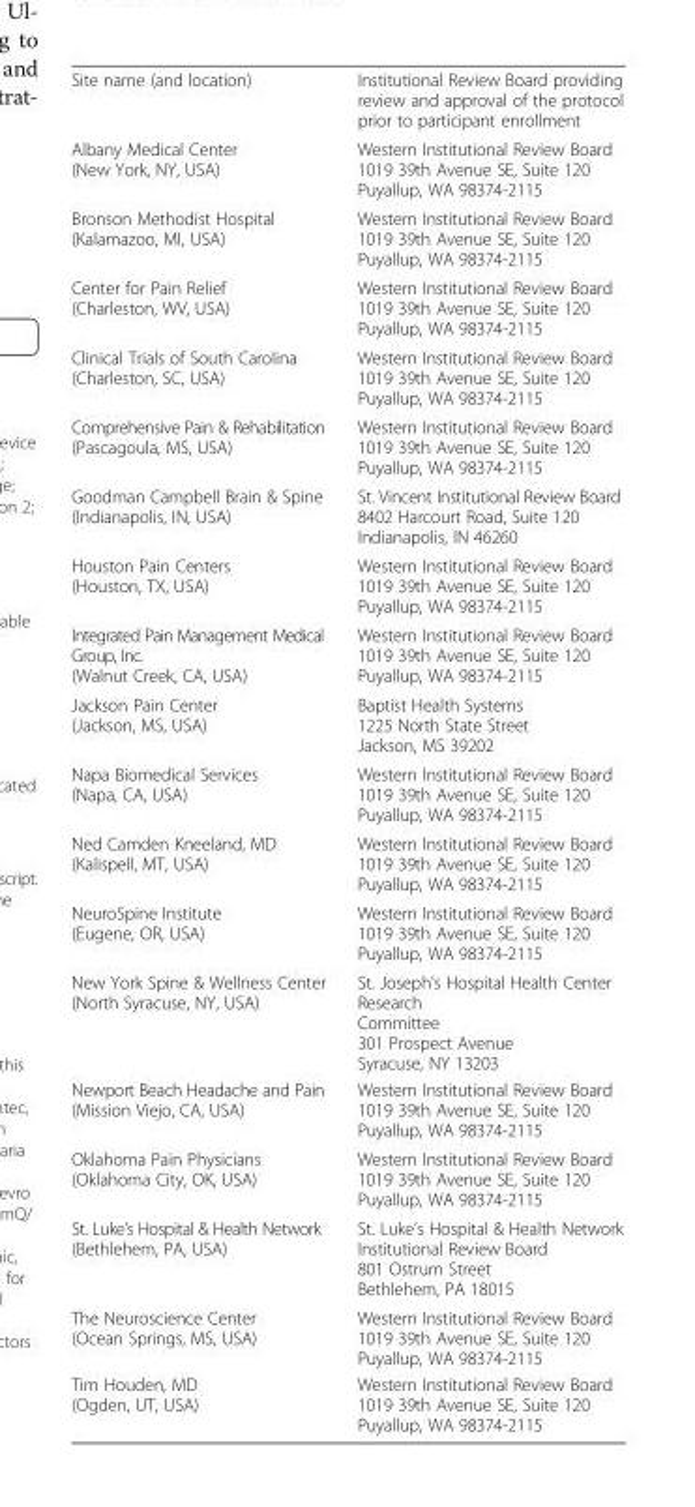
<table><tbody><tr><td>Site name (and location)</td><td>Institutional Review Board providing review and approval of the protocol prior to participant enrollment</td></tr><tr><td>Albany Medical Center (New York, NY, USA)</td><td>Western Institutional Review Board 1019 39th Avenue SE, Suite 120 Puyallup, WA 98374-2115</td></tr><tr><td>Bronson Methodist Hospital (Kalamazoo, MI, USA)</td><td>Western Institutional Review Board 1019 39th Avenue SE, Suite 120 Puyallup, WA 98374-2115</td></tr><tr><td>Center for Pain Relief (Charleston, WV, USA)</td><td>Western Institutional Review Board 1019 39th Avenue SE, Suite 120 Puyallup, WA 98374-2115</td></tr><tr><td>Clinical Trials of South Carolina (Charleston, SC, USA)</td><td>Western Institutional Review Board 1019 39th Avenue SE, Suite 120 Puyallup, WA 98374-2115</td></tr><tr><td>Comprehensive Pain &amp; Rehabilitation (Pascagoula, MS, USA)</td><td>Western Institutional Review Board 1019 39th Avenue SE, Suite 120 Puyallup, WA 98374-2115</td></tr><tr><td>Goodman Campbell Brain &amp; Spine (Indianapolis, IN, USA)</td><td>St. Vincent Institutional Review Board 8402 Harcourt Road, Suite 120 Indianapolis, IN 46260</td></tr><tr><td>Houston Pain Centers (Houston, TX, USA)</td><td>Western Institutional Review Board 1019 39th Avenue SE, Suite 120 Puyallup, WA 98374-2115</td></tr><tr><td>Integrated Pain Management Medical Group, Inc. (Walnut Creek, CA, USA)</td><td>Western Institutional Review Board 1019 39th Avenue SE, Suite 120 Puyallup, WA 98374-2115</td></tr><tr><td>Jackson Pain Center (Jackson, MS, USA)</td><td>Baptist Health Systems 1225 North State Street Jackson, MS 39202</td></tr><tr><td>Napa Biomedical Services (Napa, CA, USA)</td><td>Western Institutional Review Board 1019 39th Avenue SE, Suite 120 Puyallup, WA 98374-2115</td></tr><tr><td>Ned Camden Kneeland, MD (Kalispell, MT, USA)</td><td>Western Institutional Review Board 1019 39th Avenue SE, Suite 120 Puyallup, WA 98374-2115</td></tr><tr><td>NeuroSpine Institute (Eugene, OR, USA)</td><td>Western Institutional Review Board 1019 39th Avenue SE, Suite 120 Puyallup, WA 98374-2115</td></tr><tr><td>New York Spine &amp; Wellness Center (North Syracuse, NY, USA)</td><td>St. Joseph’s Hospital Health Center Research Committee 301 Prospect Avenue Syracuse, NY 13203</td></tr><tr><td>Newport Beach Headache and Pain (Mission Viejo, CA, USA)</td><td>Western Institutional Review Board 1019 39th Avenue SE, Suite 120 Puyallup, WA 98374-2115</td></tr><tr><td>Oklahoma Pain Physicians (Oklahoma City, OK, USA)</td><td>Western Institutional Review Board 1019 39th Avenue SE, Suite 120 Puyallup, WA 98374-2115</td></tr><tr><td>St. Luke’s Hospital &amp; Health Network (Bethlehem, PA, USA)</td><td>St. Luke’s Hospital &amp; Health Network Institutional Review Board 801 Ostrum Street Bethlehem, PA 18015</td></tr><tr><td>The Neuroscience Center (Ocean Springs, MS, USA)</td><td>Western Institutional Review Board 1019 39th Avenue SE, Suite 120 Puyallup, WA 98374-2115</td></tr><tr><td>Tim Houden, MD (Ogden, UT, USA)</td><td>Western Institutional Review Board 1019 39th Avenue SE, Suite 120 Puyallup, WA 98374-2115</td></tr></tbody></table>